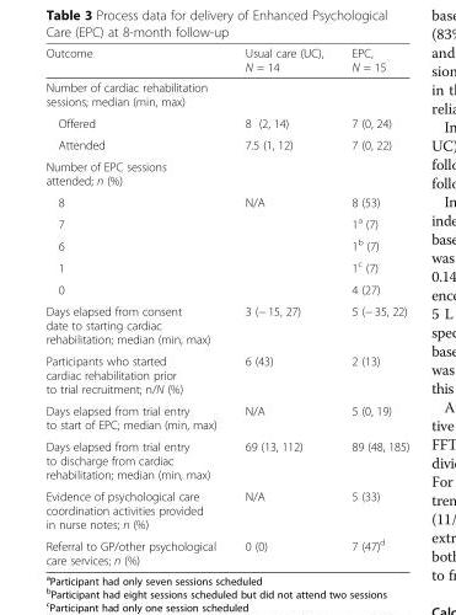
<table><thead><tr><td>Outcome</td><td>Usual care (UC), N = 14</td><td>EPC, N = 15</td></tr></thead><tbody><tr><td colspan="3">Number of cardiac rehabilitation sessions; median (min, max)</td></tr><tr><td>Offered</td><td>8 (2, 14)</td><td>7 (0, 24)</td></tr><tr><td>Attended</td><td>7.5 (1, 12)</td><td>7 (0, 22)</td></tr><tr><td colspan="3">Number of EPC sessions attended; n (%)</td></tr><tr><td>8</td><td>N/A</td><td>8 (53)</td></tr><tr><td>7</td><td></td><td>1<sup>a</sup> (7)</td></tr><tr><td>6</td><td></td><td>1<sup>b</sup> (7)</td></tr><tr><td>1</td><td></td><td>1<sup>c</sup> (7)</td></tr><tr><td>0</td><td></td><td>4 (27)</td></tr><tr><td>Days elapsed from consent date to starting cardiac rehabilitation; median (min, max)</td><td>3 (− 15, 27)</td><td>5 (− 35, 22)</td></tr><tr><td>Participants who started cardiac rehabilitation prior to trial recruitment; n/N (%)</td><td>6 (43)</td><td>2 (13)</td></tr><tr><td>Days elapsed from trial entry to start of EPC; median (min, max)</td><td>N/A</td><td>5 (0, 19)</td></tr><tr><td>Days elapsed from trial entry to discharge from cardiac rehabilitation; median (min, max)</td><td>69 (13, 112)</td><td>89 (48, 185)</td></tr><tr><td>Evidence of psychological care coordination activities provided in nurse notes; n (%)</td><td>N/A</td><td>5 (33)</td></tr><tr><td>Referral to GP/other psychological care services; n (%)</td><td>0 (0)</td><td>7 (47)<sup>d</sup></td></tr></tbody></table>